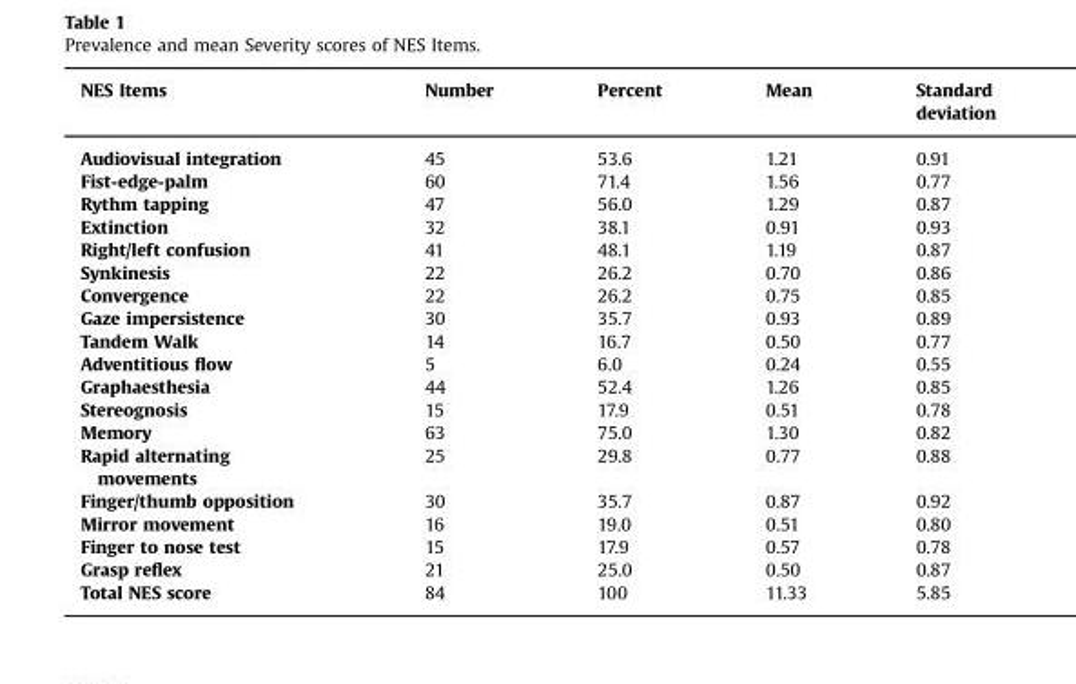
<table><thead><tr><td>NES Items</td><td>Number</td><td>Percent</td><td>Mean</td><td>Standard deviation</td></tr></thead><tbody><tr><td>Audiovisual integration</td><td>45</td><td>53.6</td><td>1.21</td><td>0.91</td></tr><tr><td>Fist-edge-palm</td><td>60</td><td>71.4</td><td>1.56</td><td>0.77</td></tr><tr><td>Rythm tapping</td><td>47</td><td>56.0</td><td>1.29</td><td>0.87</td></tr><tr><td>Extinction</td><td>32</td><td>38.1</td><td>0.91</td><td>0.93</td></tr><tr><td>Right/left confusion</td><td>41</td><td>48.1</td><td>1.19</td><td>0.87</td></tr><tr><td>Synkinesis</td><td>22</td><td>26.2</td><td>0.70</td><td>0.86</td></tr><tr><td>Convergence</td><td>22</td><td>26.2</td><td>0.75</td><td>0.85</td></tr><tr><td>Gaze impersistence</td><td>30</td><td>35.7</td><td>0.93</td><td>0.89</td></tr><tr><td>Tandem Walk</td><td>14</td><td>16.7</td><td>0.50</td><td>0.77</td></tr><tr><td>Adventitious flow</td><td>5</td><td>6.0</td><td>0.24</td><td>0.55</td></tr><tr><td>Graphaesthesia</td><td>44</td><td>52.4</td><td>1.26</td><td>0.85</td></tr><tr><td>Stereognosis</td><td>15</td><td>17.9</td><td>0.51</td><td>0.78</td></tr><tr><td>Memory</td><td>63</td><td>75.0</td><td>1.30</td><td>0.82</td></tr><tr><td>Rapid alternating movements</td><td>25</td><td>29.8</td><td>0.77</td><td>0.88</td></tr><tr><td>Finger/thumb opposition</td><td>30</td><td>35.7</td><td>0.87</td><td>0.92</td></tr><tr><td>Mirror movement</td><td>16</td><td>19.0</td><td>0.51</td><td>0.80</td></tr><tr><td>Finger to nose test</td><td>15</td><td>17.9</td><td>0.57</td><td>0.78</td></tr><tr><td>Grasp reflex</td><td>21</td><td>25.0</td><td>0.50</td><td>0.87</td></tr><tr><td>Total NES score</td><td>84</td><td>100</td><td>11.33</td><td>5.85</td></tr></tbody></table>